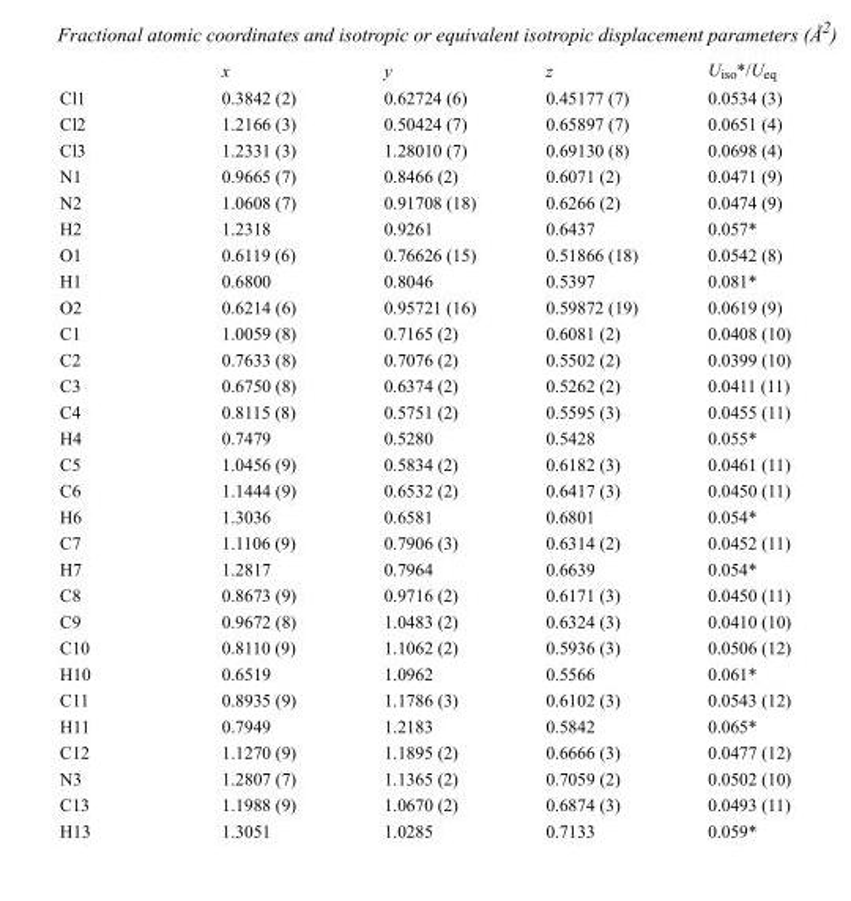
<table><thead><tr><td></td><td>x</td><td>y</td><td>z</td><td>U<sub>iso</sub>*/U<sub>eq</sub></td></tr></thead><tbody><tr><td>Cl1</td><td>0.3842 (2)</td><td>0.62724 (6)</td><td>0.45177 (7)</td><td>0.0534 (3)</td></tr><tr><td>Cl2</td><td>1.2166 (3)</td><td>0.50424 (7)</td><td>0.65897 (7)</td><td>0.0651 (4)</td></tr><tr><td>Cl3</td><td>1.2331 (3)</td><td>1.28010 (7)</td><td>0.69130 (8)</td><td>0.0698 (4)</td></tr><tr><td>N1</td><td>0.9665 (7)</td><td>0.8466 (2)</td><td>0.6071 (2)</td><td>0.0471 (9)</td></tr><tr><td>N2</td><td>1.0608 (7)</td><td>0.91708 (18)</td><td>0.6266 (2)</td><td>0.0474 (9)</td></tr><tr><td>H2</td><td>1.2318</td><td>0.9261</td><td>0.6437</td><td>0.057*</td></tr><tr><td>O1</td><td>0.6119 (6)</td><td>0.76626 (15)</td><td>0.51866 (18)</td><td>0.0542 (8)</td></tr><tr><td>H1</td><td>0.6800</td><td>0.8046</td><td>0.5397</td><td>0.081*</td></tr><tr><td>O2</td><td>0.6214 (6)</td><td>0.95721 (16)</td><td>0.59872 (19)</td><td>0.0619 (9)</td></tr><tr><td>C1</td><td>1.0059 (8)</td><td>0.7165 (2)</td><td>0.6081 (2)</td><td>0.0408 (10)</td></tr><tr><td>C2</td><td>0.7633 (8)</td><td>0.7076 (2)</td><td>0.5502 (2)</td><td>0.0399 (10)</td></tr><tr><td>C3</td><td>0.6750 (8)</td><td>0.6374 (2)</td><td>0.5262 (2)</td><td>0.0411 (11)</td></tr><tr><td>C4</td><td>0.8115 (8)</td><td>0.5751 (2)</td><td>0.5595 (3)</td><td>0.0455 (11)</td></tr><tr><td>H4</td><td>0.7479</td><td>0.5280</td><td>0.5428</td><td>0.055*</td></tr><tr><td>C5</td><td>1.0456 (9)</td><td>0.5834 (2)</td><td>0.6182 (3)</td><td>0.0461 (11)</td></tr><tr><td>C6</td><td>1.1444 (9)</td><td>0.6532 (2)</td><td>0.6417 (3)</td><td>0.0450 (11)</td></tr><tr><td>H6</td><td>1.3036</td><td>0.6581</td><td>0.6801</td><td>0.054*</td></tr><tr><td>C7</td><td>1.1106 (9)</td><td>0.7906 (3)</td><td>0.6314 (2)</td><td>0.0452 (11)</td></tr><tr><td>H7</td><td>1.2817</td><td>0.7964</td><td>0.6639</td><td>0.054*</td></tr><tr><td>C8</td><td>0.8673 (9)</td><td>0.9716 (2)</td><td>0.6171 (3)</td><td>0.0450 (11)</td></tr><tr><td>C9</td><td>0.9672 (8)</td><td>1.0483 (2)</td><td>0.6324 (3)</td><td>0.0410 (10)</td></tr><tr><td>C10</td><td>0.8110 (9)</td><td>1.1062 (2)</td><td>0.5936 (3)</td><td>0.0506 (12)</td></tr><tr><td>H10</td><td>0.6519</td><td>1.0962</td><td>0.5566</td><td>0.061*</td></tr><tr><td>C11</td><td>0.8935 (9)</td><td>1.1786 (3)</td><td>0.6102 (3)</td><td>0.0543 (12)</td></tr><tr><td>H11</td><td>0.7949</td><td>1.2183</td><td>0.5842</td><td>0.065*</td></tr><tr><td>C12</td><td>1.1270 (9)</td><td>1.1895 (2)</td><td>0.6666 (3)</td><td>0.0477 (12)</td></tr><tr><td>N3</td><td>1.2807 (7)</td><td>1.1365 (2)</td><td>0.7059 (2)</td><td>0.0502 (10)</td></tr><tr><td>C13</td><td>1.1988 (9)</td><td>1.0670 (2)</td><td>0.6874 (3)</td><td>0.0493 (11)</td></tr><tr><td>H13</td><td>1.3051</td><td>1.0285</td><td>0.7133</td><td>0.059*</td></tr></tbody></table>